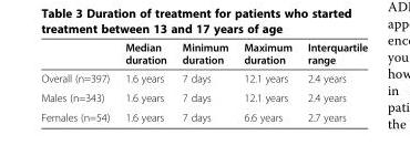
<table><thead><tr><td></td><td>Median duration</td><td>Minimum duration</td><td>Maximum duration</td><td>Interquartile range</td></tr></thead><tbody><tr><td>Overall (n=397)</td><td>1.6 years</td><td>7 days</td><td>12.1 years</td><td>2.4 years</td></tr><tr><td>Males (n=343)</td><td>1.6 years</td><td>7 days</td><td>12.1 years</td><td>2.4 years</td></tr><tr><td>Females (n=54)</td><td>1.6 years</td><td>7 days</td><td>6.6 years</td><td>2.7 years</td></tr></tbody></table>